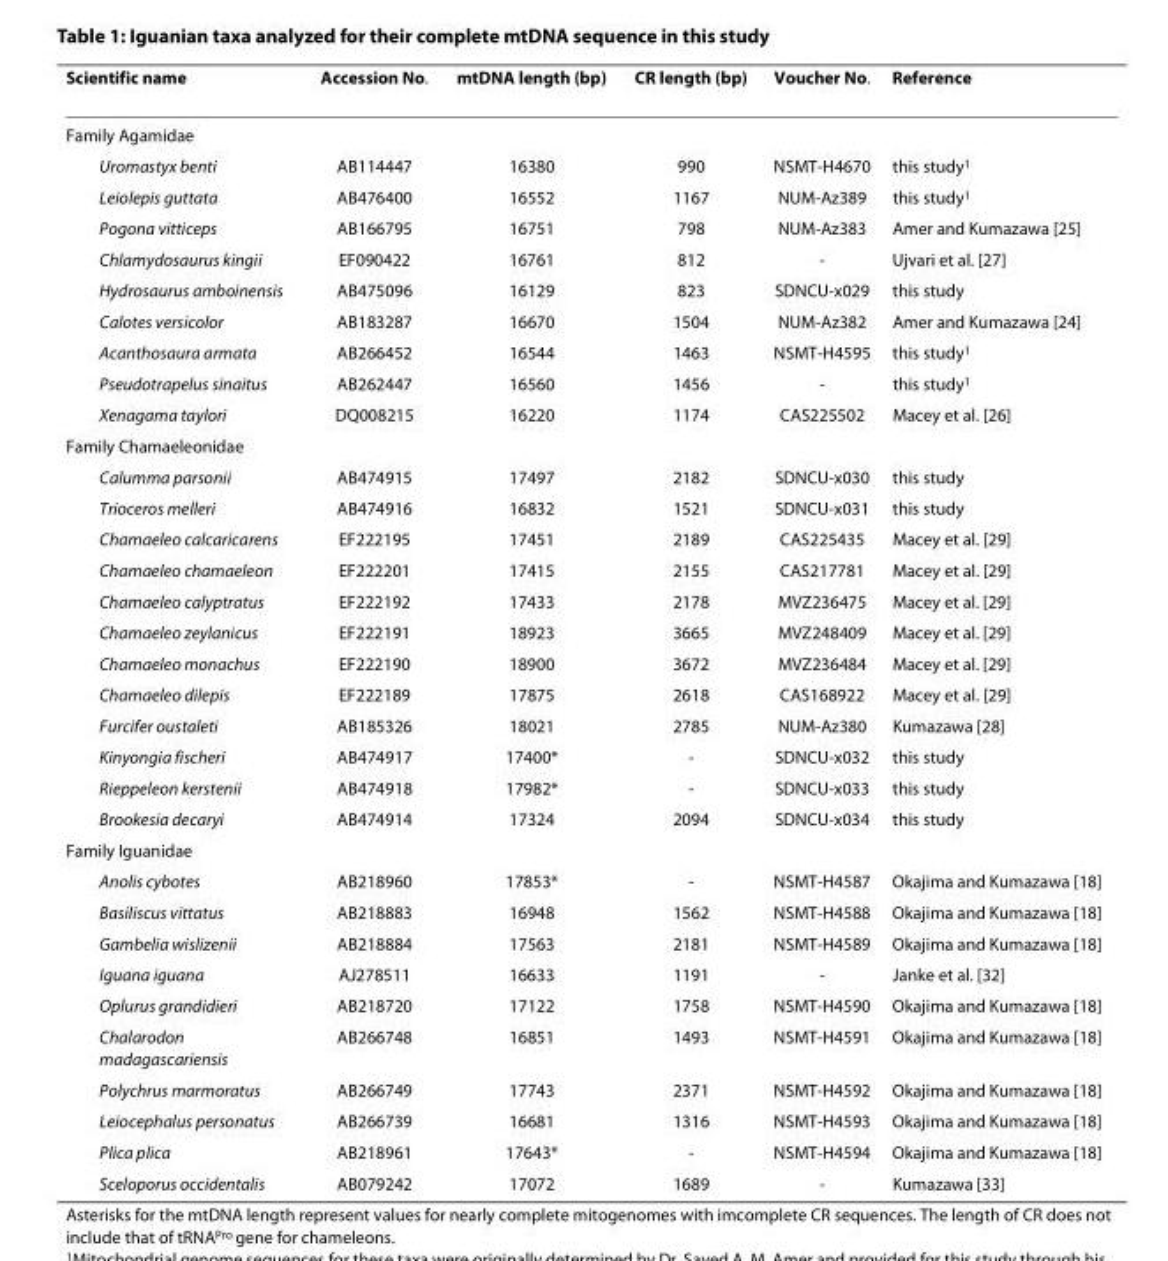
<table><thead><tr><td>Scientific name</td><td>Accession No.</td><td>mtDNA length (bp)</td><td>CR length (bp)</td><td>Voucher No.</td><td>Reference</td></tr></thead><tbody><tr><td colspan="6">Family Agamidae</td></tr><tr><td>Uromastyx benti</td><td>AB114447</td><td>16380</td><td>990</td><td>NSMT-H4670</td><td>this study<sup>1</sup></td></tr><tr><td>Leiolepis guttata</td><td>AB476400</td><td>16552</td><td>1167</td><td>NUM-Az389</td><td>this study<sup>1</sup></td></tr><tr><td>Pogona vitticeps</td><td>AB166795</td><td>16751</td><td>798</td><td>NUM-Az383</td><td>Amer and Kumazawa [25]</td></tr><tr><td>Chlamydosaurus kingii</td><td>EF090422</td><td>16761</td><td>812</td><td>-</td><td>Ujvari et al. [27]</td></tr><tr><td>Hydrosaurus amboinensis</td><td>AB475096</td><td>16129</td><td>823</td><td>SDNCU-x029</td><td>this study</td></tr><tr><td>Calotes versicolor</td><td>AB183287</td><td>16670</td><td>1504</td><td>NUM-Az382</td><td>Amer and Kumazawa [24]</td></tr><tr><td>Acanthosaura armata</td><td>AB266452</td><td>16544</td><td>1463</td><td>NSMT-H4595</td><td>this study<sup>1</sup></td></tr><tr><td>Pseudotrapelus sinaitus</td><td>AB262447</td><td>16560</td><td>1456</td><td>-</td><td>this study<sup>1</sup></td></tr><tr><td>Xenagama taylori</td><td>DQ008215</td><td>16220</td><td>1174</td><td>CAS225502</td><td>Macey et al. [26]</td></tr><tr><td colspan="6">Family Chamaeleonidae</td></tr><tr><td>Calumma parsonii</td><td>AB474915</td><td>17497</td><td>2182</td><td>SDNCU-x030</td><td>this study</td></tr><tr><td>Trioceros melleri</td><td>AB474916</td><td>16832</td><td>1521</td><td>SDNCU-x031</td><td>this study</td></tr><tr><td>Chamaeleo calcaricarens</td><td>EF222195</td><td>17451</td><td>2189</td><td>CAS225435</td><td>Macey et al. [29]</td></tr><tr><td>Chamaeleo chamaeleon</td><td>EF222201</td><td>17415</td><td>2155</td><td>CAS217781</td><td>Macey et al. [29]</td></tr><tr><td>Chamaeleo calyptratus</td><td>EF222192</td><td>17433</td><td>2178</td><td>MVZ236475</td><td>Macey et al. [29]</td></tr><tr><td>Chamaeleo zeylanicus</td><td>EF222191</td><td>18923</td><td>3665</td><td>MVZ248409</td><td>Macey et al. [29]</td></tr><tr><td>Chamaeleo monachus</td><td>EF222190</td><td>18900</td><td>3672</td><td>MVZ236484</td><td>Macey et al. [29]</td></tr><tr><td>Chamaeleo dilepis</td><td>EF222189</td><td>17875</td><td>2618</td><td>CAS168922</td><td>Macey et al. [29]</td></tr><tr><td>Furcifer oustaleti</td><td>AB185326</td><td>18021</td><td>2785</td><td>NUM-Az380</td><td>Kumazawa [28]</td></tr><tr><td>Kinyongia fischeri</td><td>AB474917</td><td>17400*</td><td>-</td><td>SDNCU-x032</td><td>this study</td></tr><tr><td>Rieppeleon kerstenii</td><td>AB474918</td><td>17982*</td><td>-</td><td>SDNCU-x033</td><td>this study</td></tr><tr><td>Brookesia decaryi</td><td>AB474914</td><td>17324</td><td>2094</td><td>SDNCU-x034</td><td>this study</td></tr><tr><td colspan="6">Family Iguanidae</td></tr><tr><td>Anolis cybotes</td><td>AB218960</td><td>17853*</td><td>-</td><td>NSMT-H4587</td><td>Okajima and Kumazawa [18]</td></tr><tr><td>Basiliscus vittatus</td><td>AB218883</td><td>16948</td><td>1562</td><td>NSMT-H4588</td><td>Okajima and Kumazawa [18]</td></tr><tr><td>Gambelia wislizenii</td><td>AB218884</td><td>17563</td><td>2181</td><td>NSMT-H4589</td><td>Okajima and Kumazawa [18]</td></tr><tr><td>Iguana iguana</td><td>AJ278511</td><td>16633</td><td>1191</td><td>-</td><td>Janke et al. [32]</td></tr><tr><td>Oplurus grandidieri</td><td>AB218720</td><td>17122</td><td>1758</td><td>NSMT-H4590</td><td>Okajima and Kumazawa [18]</td></tr><tr><td>Chalarodon madagascariensis</td><td>AB266748</td><td>16851</td><td>1493</td><td>NSMT-H4591</td><td>Okajima and Kumazawa [18]</td></tr><tr><td>Polychrus marmoratus</td><td>AB266749</td><td>17743</td><td>2371</td><td>NSMT-H4592</td><td>Okajima and Kumazawa [18]</td></tr><tr><td>Leiocephalus personatus</td><td>AB266739</td><td>16681</td><td>1316</td><td>NSMT-H4593</td><td>Okajima and Kumazawa [18]</td></tr><tr><td>Plica plica</td><td>AB218961</td><td>17643*</td><td>-</td><td>NSMT-H4594</td><td>Okajima and Kumazawa [18]</td></tr><tr><td>Sceloporus occidentalis</td><td>AB079242</td><td>17072</td><td>1689</td><td>-</td><td>Kumazawa [33]</td></tr></tbody></table>